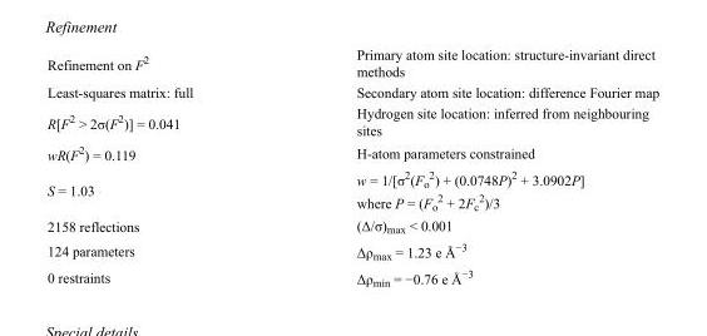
<table><tbody><tr><td>Refinement on F<sup>2</sup></td><td>Primary atom site location: structure-invariant direct methods</td></tr><tr><td>Least-squares matrix: full</td><td>Secondary atom site location: difference Fourier map</td></tr><tr><td>R[F<sup>2</sup> &gt; 2σ(F<sup>2</sup>)] = 0.041</td><td>Hydrogen site location: inferred from neighbouring sites</td></tr><tr><td>wR(F<sup>2</sup>) = 0.119</td><td>H-atom parameters constrained</td></tr><tr><td>S = 1.03</td><td>w = 1/[σ<sup>2</sup>(F<sub>o</sub> <sup>2</sup>) + (0.0748P)<sup>2</sup> + 3.0902P] where P = (F<sub>o</sub> <sup>2</sup> + 2F<sub>c</sub> <sup>2</sup>)/3</td></tr><tr><td>2158 reflections</td><td>(Δ/σ)<sub>max</sub> &lt; 0.001</td></tr><tr><td>124 parameters</td><td>Δρ<sub>max</sub> = 1.23 e Å<sup>−3</sup></td></tr><tr><td>0 restraints</td><td>Δρ<sub>min</sub> = −0.76 e Å<sup>−3</sup></td></tr></tbody></table>